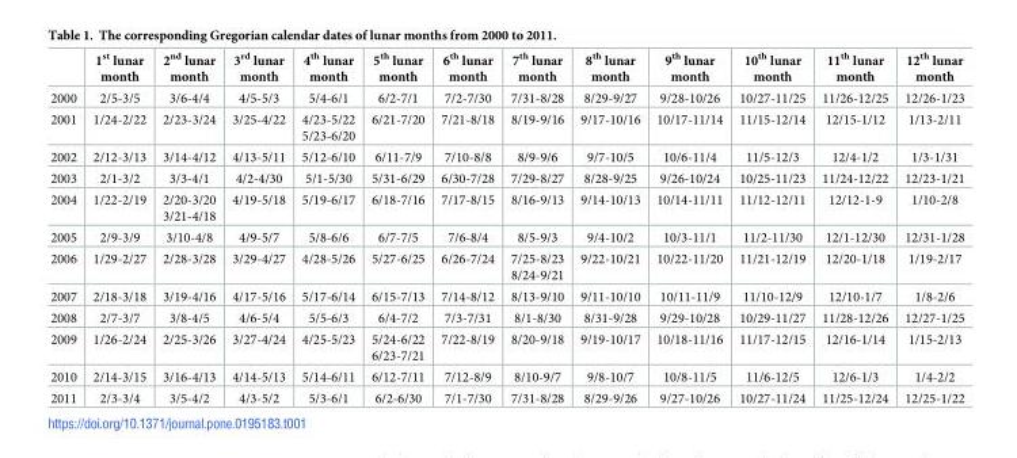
<table><thead><tr><td></td><td>1<sup>st</sup> lunar month</td><td>2<sup>nd</sup> lunar month</td><td>3<sup>rd</sup> lunar month</td><td>4<sup>th</sup> lunar month</td><td>5<sup>th</sup> lunar month</td><td>6<sup>th</sup> lunar month</td><td>7<sup>th</sup> lunar month</td><td>8<sup>th</sup> lunar month</td><td>9<sup>th</sup> lunar month</td><td>10<sup>th</sup> lunar month</td><td>11<sup>th</sup> lunar month</td><td>12<sup>th</sup> lunar month</td></tr></thead><tbody><tr><td>2000</td><td>2/5-3/5</td><td>3/6-4/4</td><td>4/5-5/3</td><td>5/4-6/1</td><td>6/2-7/1</td><td>7/2-7/30</td><td>7/31-8/28</td><td>8/29-9/27</td><td>9/28-10/26</td><td>10/27-11/25</td><td>11/26-12/25</td><td>12/26-1/23</td></tr><tr><td>2001</td><td>1/24-2/22</td><td>2/23-3/24</td><td>3/25-4/22</td><td>4/23-5/22 5/23-6/20</td><td>6/21-7/20</td><td>7/21-8/18</td><td>8/19-9/16</td><td>9/17-10/16</td><td>10/17-11/14</td><td>11/15-12/14</td><td>12/15-1/12</td><td>1/13-2/11</td></tr><tr><td>2002</td><td>2/12-3/13</td><td>3/14-4/12</td><td>4/13-5/11</td><td>5/12-6/10</td><td>6/11-7/9</td><td>7/10-8/8</td><td>8/9-9/6</td><td>9/7-10/5</td><td>10/6-11/4</td><td>11/5-12/3</td><td>12/4-1/2</td><td>1/3-1/31</td></tr><tr><td>2003</td><td>2/1-3/2</td><td>3/3-4/1</td><td>4/2-4/30</td><td>5/1-5/30</td><td>5/31-6/29</td><td>6/30-7/28</td><td>7/29-8/27</td><td>8/28-9/25</td><td>9/26-10/24</td><td>10/25-11/23</td><td>11/24-12/22</td><td>12/23-1/21</td></tr><tr><td>2004</td><td>1/22-2/19</td><td>2/20-3/20 3/21-4/18</td><td>4/19-5/18</td><td>5/19-6/17</td><td>6/18-7/16</td><td>7/17-8/15</td><td>8/16-9/13</td><td>9/14-10/13</td><td>10/14-11/11</td><td>11/12-12/11</td><td>12/12-1-9</td><td>1/10-2/8</td></tr><tr><td>2005</td><td>2/9-3/9</td><td>3/10-4/8</td><td>4/9-5/7</td><td>5/8-6/6</td><td>6/7-7/5</td><td>7/6-8/4</td><td>8/5-9/3</td><td>9/4-10/2</td><td>10/3-11/1</td><td>11/2-11/30</td><td>12/1-12/30</td><td>12/31-1/28</td></tr><tr><td>2006</td><td>1/29-2/27</td><td>2/28-3/28</td><td>3/29-4/27</td><td>4/28-5/26</td><td>5/27-6/25</td><td>6/26-7/24</td><td>7/25-8/23 8/24-9/21</td><td>9/22-10/21</td><td>10/22-11/20</td><td>11/21-12/19</td><td>12/20-1/18</td><td>1/19-2/17</td></tr><tr><td>2007</td><td>2/18-3/18</td><td>3/19-4/16</td><td>4/17-5/16</td><td>5/17-6/14</td><td>6/15-7/13</td><td>7/14-8/12</td><td>8/13-9/10</td><td>9/11-10/10</td><td>10/11-11/9</td><td>11/10-12/9</td><td>12/10-1/7</td><td>1/8-2/6</td></tr><tr><td>2008</td><td>2/7-3/7</td><td>3/8-4/5</td><td>4/6-5/4</td><td>5/5-6/3</td><td>6/4-7/2</td><td>7/3-7/31</td><td>8/1-8/30</td><td>8/31-9/28</td><td>9/29-10/28</td><td>10/29-11/27</td><td>11/28-12/26</td><td>12/27-1/25</td></tr><tr><td>2009</td><td>1/26-2/24</td><td>2/25-3/26</td><td>3/27-4/24</td><td>4/25-5/23</td><td>5/24-6/22 6/23-7/21</td><td>7/22-8/19</td><td>8/20-9/18</td><td>9/19-10/17</td><td>10/18-11/16</td><td>11/17-12/15</td><td>12/16-1/14</td><td>1/15-2/13</td></tr><tr><td>2010</td><td>2/14-3/15</td><td>3/16-4/13</td><td>4/14-5/13</td><td>5/14-6/11</td><td>6/12-7/11</td><td>7/12-8/9</td><td>8/10-9/7</td><td>9/8-10/7</td><td>10/8-11/5</td><td>11/6-12/5</td><td>12/6-1/3</td><td>1/4-2/2</td></tr><tr><td>2011</td><td>2/3-3/4</td><td>3/5-4/2</td><td>4/3-5/2</td><td>5/3-6/1</td><td>6/2-6/30</td><td>7/1-7/30</td><td>7/31-8/28</td><td>8/29-9/26</td><td>9/27-10/26</td><td>10/27-11/24</td><td>11/25-12/24</td><td>12/25-1/22</td></tr></tbody></table>